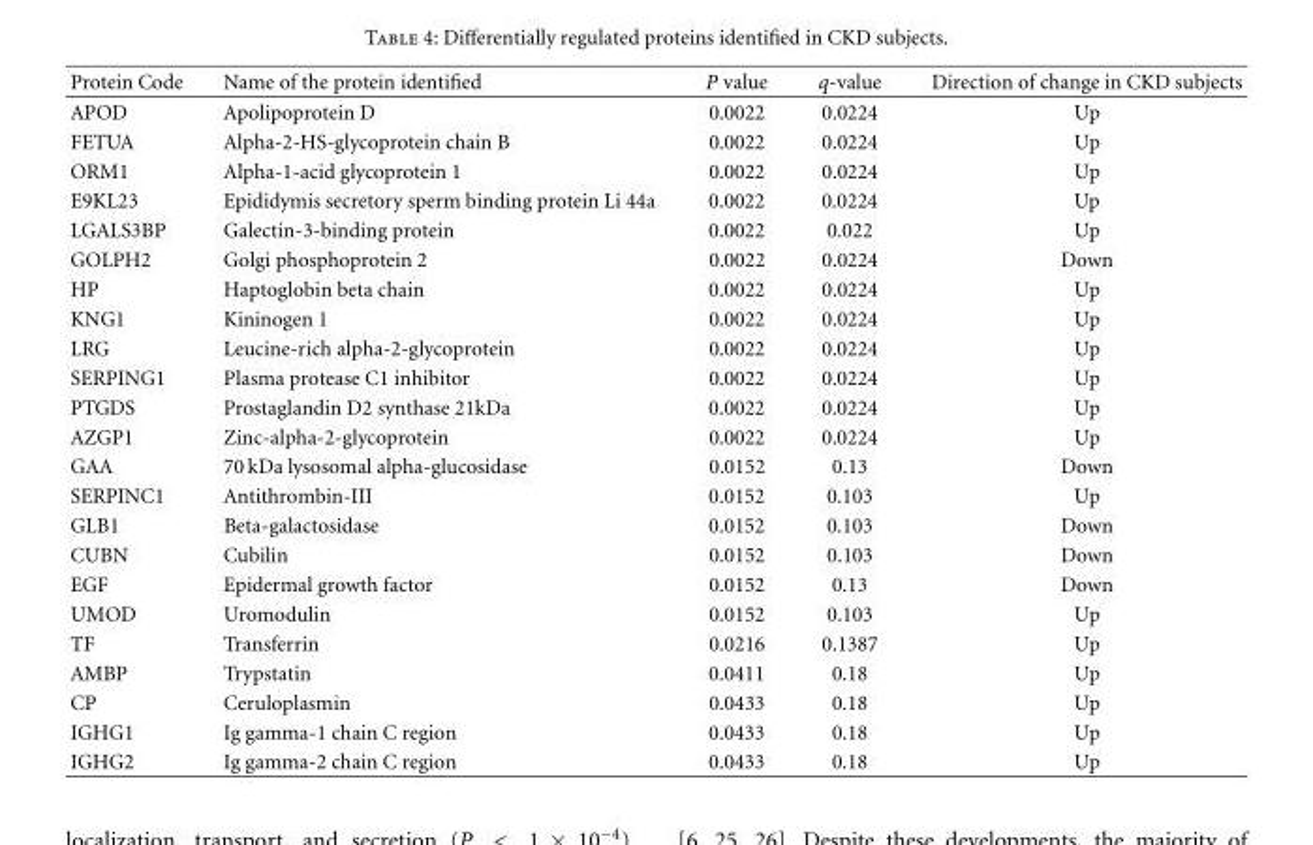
<table><thead><tr><td>Protein Code</td><td>Name of the protein identified</td><td>P value</td><td>q-value</td><td>Direction of change in CKD subjects</td></tr></thead><tbody><tr><td>APOD</td><td>Apolipoprotein D</td><td>0.0022</td><td>0.0224</td><td>Up</td></tr><tr><td>FETUA</td><td>Alpha-2-HS-glycoprotein chain B</td><td>0.0022</td><td>0.0224</td><td>Up</td></tr><tr><td>ORM1</td><td>Alpha-1-acid glycoprotein 1</td><td>0.0022</td><td>0.0224</td><td>Up</td></tr><tr><td>E9KL23</td><td>Epididymis secretory sperm binding protein Li 44a</td><td>0.0022</td><td>0.0224</td><td>Up</td></tr><tr><td>LGALS3BP</td><td>Galectin-3-binding protein</td><td>0.0022</td><td>0.022</td><td>Up</td></tr><tr><td>GOLPH2</td><td>Golgi phosphoprotein 2</td><td>0.0022</td><td>0.0224</td><td>Down</td></tr><tr><td>HP</td><td>Haptoglobin beta chain</td><td>0.0022</td><td>0.0224</td><td>Up</td></tr><tr><td>KNG1</td><td>Kininogen 1</td><td>0.0022</td><td>0.0224</td><td>Up</td></tr><tr><td>LRG</td><td>Leucine-rich alpha-2-glycoprotein</td><td>0.0022</td><td>0.0224</td><td>Up</td></tr><tr><td>SERPING1</td><td>Plasma protease C1 inhibitor</td><td>0.0022</td><td>0.0224</td><td>Up</td></tr><tr><td>PTGDS</td><td>Prostaglandin D2 synthase 21kDa</td><td>0.0022</td><td>0.0224</td><td>Up</td></tr><tr><td>AZGP1</td><td>Zinc-alpha-2-glycoprotein</td><td>0.0022</td><td>0.0224</td><td>Up</td></tr><tr><td>GAA</td><td>70 kDa lysosomal alpha-glucosidase</td><td>0.0152</td><td>0.13</td><td>Down</td></tr><tr><td>SERPINC1</td><td>Antithrombin-III</td><td>0.0152</td><td>0.103</td><td>Up</td></tr><tr><td>GLB1</td><td>Beta-galactosidase</td><td>0.0152</td><td>0.103</td><td>Down</td></tr><tr><td>CUBN</td><td>Cubilin</td><td>0.0152</td><td>0.103</td><td>Down</td></tr><tr><td>EGF</td><td>Epidermal growth factor</td><td>0.0152</td><td>0.13</td><td>Down</td></tr><tr><td>UMOD</td><td>Uromodulin</td><td>0.0152</td><td>0.103</td><td>Up</td></tr><tr><td>TF</td><td>Transferrin</td><td>0.0216</td><td>0.1387</td><td>Up</td></tr><tr><td>AMBP</td><td>Trypstatin</td><td>0.0411</td><td>0.18</td><td>Up</td></tr><tr><td>CP</td><td>Ceruloplasmin</td><td>0.0433</td><td>0.18</td><td>Up</td></tr><tr><td>IGHG1</td><td>Ig gamma-1 chain C region</td><td>0.0433</td><td>0.18</td><td>Up</td></tr><tr><td>IGHG2</td><td>Ig gamma-2 chain C region</td><td>0.0433</td><td>0.18</td><td>Up</td></tr></tbody></table>